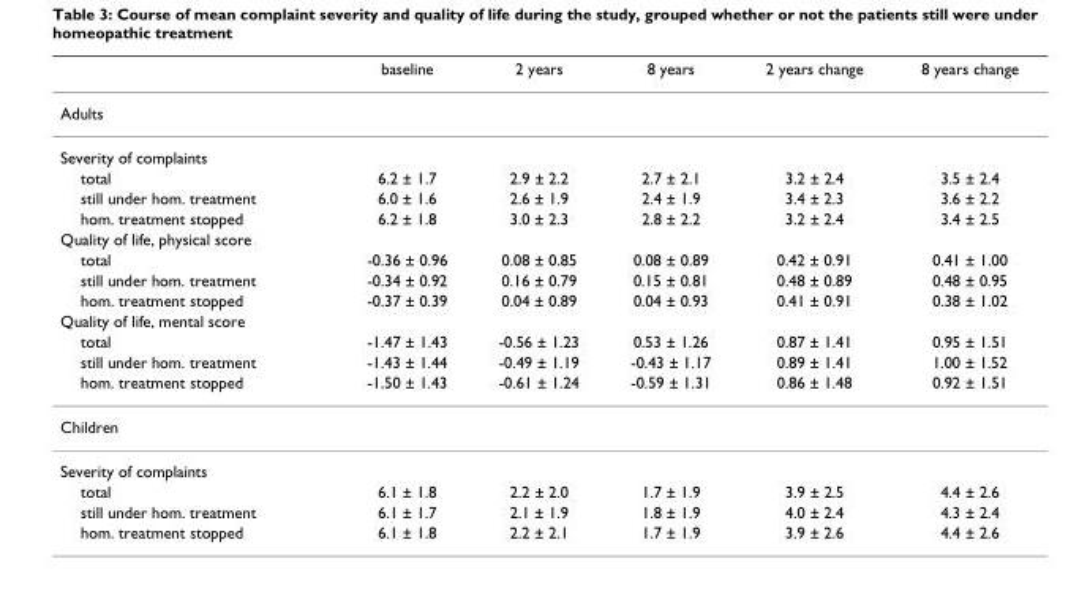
<table><thead><tr><td></td><td>baseline</td><td>2 years</td><td>8 years</td><td>2 years change</td><td>8 years change</td></tr></thead><tbody><tr><td colspan="6">Adults</td></tr><tr><td colspan="6">Severity of complaints</td></tr><tr><td>total</td><td>6.2 ± 1.7</td><td>2.9 ± 2.2</td><td>2.7 ± 2.1</td><td>3.2 ± 2.4</td><td>3.5 ± 2.4</td></tr><tr><td>still under hom. treatment</td><td>6.0 ± 1.6</td><td>2.6 ± 1.9</td><td>2.4 ± 1.9</td><td>3.4 ± 2.3</td><td>3.6 ± 2.2</td></tr><tr><td>hom. treatment stopped</td><td>6.2 ± 1.8</td><td>3.0 ± 2.3</td><td>2.8 ± 2.2</td><td>3.2 ± 2.4</td><td>3.4 ± 2.5</td></tr><tr><td colspan="6">Quality of life, physical score</td></tr><tr><td>total</td><td>-0.36 ± 0.96</td><td>0.08 ± 0.85</td><td>0.08 ± 0.89</td><td>0.42 ± 0.91</td><td>0.41 ± 1.00</td></tr><tr><td>still under hom. treatment</td><td>-0.34 ± 0.92</td><td>0.16 ± 0.79</td><td>0.15 ± 0.81</td><td>0.48 ± 0.89</td><td>0.48 ± 0.95</td></tr><tr><td>hom. treatment stopped</td><td>-0.37 ± 0.39</td><td>0.04 ± 0.89</td><td>0.04 ± 0.93</td><td>0.41 ± 0.91</td><td>0.38 ± 1.02</td></tr><tr><td colspan="6">Quality of life, mental score</td></tr><tr><td>total</td><td>-1.47 ± 1.43</td><td>-0.56 ± 1.23</td><td>0.53 ± 1.26</td><td>0.87 ± 1.41</td><td>0.95 ± 1.51</td></tr><tr><td>still under hom. treatment</td><td>-1.43 ± 1.44</td><td>-0.49 ± 1.19</td><td>-0.43 ± 1.17</td><td>0.89 ± 1.41</td><td>1.00 ± 1.52</td></tr><tr><td>hom. treatment stopped</td><td>-1.50 ± 1.43</td><td>-0.61 ± 1.24</td><td>-0.59 ± 1.31</td><td>0.86 ± 1.48</td><td>0.92 ± 1.51</td></tr><tr><td colspan="6">Children</td></tr><tr><td colspan="6">Severity of complaints</td></tr><tr><td>total</td><td>6.1 ± 1.8</td><td>2.2 ± 2.0</td><td>1.7 ± 1.9</td><td>3.9 ± 2.5</td><td>4.4 ± 2.6</td></tr><tr><td>still under hom. treatment</td><td>6.1 ± 1.7</td><td>2.1 ± 1.9</td><td>1.8 ± 1.9</td><td>4.0 ± 2.4</td><td>4.3 ± 2.4</td></tr><tr><td>hom. treatment stopped</td><td>6.1 ± 1.8</td><td>2.2 ± 2.1</td><td>1.7 ± 1.9</td><td>3.9 ± 2.6</td><td>4.4 ± 2.6</td></tr></tbody></table>